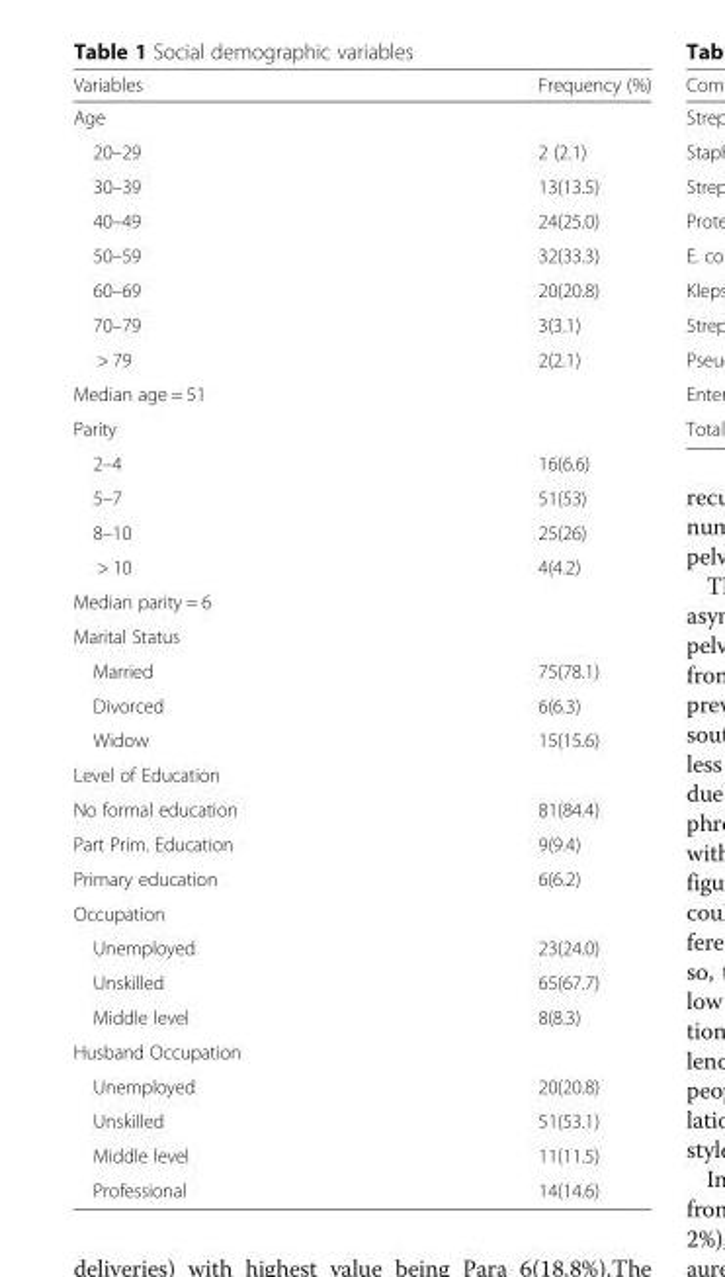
<table><thead><tr><td>Variables</td><td>Frequency (%)</td></tr></thead><tbody><tr><td colspan="2">Age</td></tr><tr><td>20–29</td><td>2 (2.1)</td></tr><tr><td>30–39</td><td>13(13.5)</td></tr><tr><td>40–49</td><td>24(25.0)</td></tr><tr><td>50–59</td><td>32(33.3)</td></tr><tr><td>60–69</td><td>20(20.8)</td></tr><tr><td>70–79</td><td>3(3.1)</td></tr><tr><td>&gt; 79</td><td>2(2.1)</td></tr><tr><td colspan="2">Median age = 51</td></tr><tr><td colspan="2">Parity</td></tr><tr><td>2–4</td><td>16(6.6)</td></tr><tr><td>5–7</td><td>51(53)</td></tr><tr><td>8–10</td><td>25(26)</td></tr><tr><td>&gt; 10</td><td>4(4.2)</td></tr><tr><td colspan="2">Median parity = 6</td></tr><tr><td colspan="2">Marital Status</td></tr><tr><td>Married</td><td>75(78.1)</td></tr><tr><td>Divorced</td><td>6(6.3)</td></tr><tr><td>Widow</td><td>15(15.6)</td></tr><tr><td colspan="2">Level of Education</td></tr><tr><td>No formal education</td><td>81(84.4)</td></tr><tr><td>Part Prim. Education</td><td>9(9.4)</td></tr><tr><td>Primary education</td><td>6(6.2)</td></tr><tr><td colspan="2">Occupation</td></tr><tr><td>Unemployed</td><td>23(24.0)</td></tr><tr><td>Unskilled</td><td>65(67.7)</td></tr><tr><td>Middle level</td><td>8(8.3)</td></tr><tr><td colspan="2">Husband Occupation</td></tr><tr><td>Unemployed</td><td>20(20.8)</td></tr><tr><td>Unskilled</td><td>51(53.1)</td></tr><tr><td>Middle level</td><td>11(11.5)</td></tr><tr><td>Professional</td><td>14(14.6)</td></tr></tbody></table>